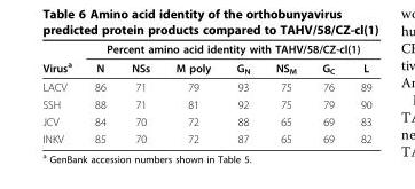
<table><thead><tr><td rowspan="2">Virus<sup>a</sup></td><td colspan="7">Percent amino acid identity with TAHV/58/CZ-cl(1)</td></tr><tr><td>N</td><td>NSs</td><td>M poly</td><td>G<sub>N</sub></td><td>NS<sub>M</sub></td><td>G<sub>C</sub></td><td>L</td></tr></thead><tbody><tr><td>LACV</td><td>86</td><td>71</td><td>79</td><td>93</td><td>75</td><td>76</td><td>89</td></tr><tr><td>SSH</td><td>88</td><td>71</td><td>81</td><td>92</td><td>75</td><td>79</td><td>90</td></tr><tr><td>JCV</td><td>84</td><td>70</td><td>72</td><td>88</td><td>65</td><td>69</td><td>83</td></tr><tr><td>INKV</td><td>85</td><td>70</td><td>72</td><td>87</td><td>65</td><td>69</td><td>82</td></tr></tbody></table>